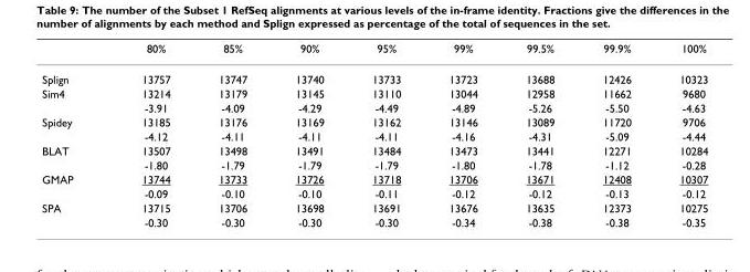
<table><thead><tr><td></td><td>80%</td><td>85%</td><td>90%</td><td>95%</td><td>99%</td><td>99.5%</td><td>99.9%</td><td>100%</td></tr></thead><tbody><tr><td>Splign</td><td>13757</td><td>13747</td><td>13740</td><td>13733</td><td>13723</td><td>13688</td><td>12426</td><td>10323</td></tr><tr><td rowspan="2">Sim4</td><td>13214</td><td>13179</td><td>13145</td><td>13110</td><td>13044</td><td>12958</td><td>11662</td><td>9680</td></tr><tr><td>-3.91</td><td>-4.09</td><td>-4.29</td><td>-4.49</td><td>-4.89</td><td>-5.26</td><td>-5.50</td><td>-4.63</td></tr><tr><td rowspan="2">Spidey</td><td>13185</td><td>13176</td><td>13169</td><td>13162</td><td>13146</td><td>13089</td><td>11720</td><td>9706</td></tr><tr><td>-4.12</td><td>-4.11</td><td>-4.11</td><td>-4.11</td><td>-4.16</td><td>-4.31</td><td>-5.09</td><td>-4.44</td></tr><tr><td rowspan="2">BLAT</td><td>13507</td><td>13498</td><td>13491</td><td>13484</td><td>13473</td><td>13441</td><td>12271</td><td>10284</td></tr><tr><td>-1.80</td><td>-1.79</td><td>-1.79</td><td>-1.79</td><td>-1.80</td><td>-1.78</td><td>-1.12</td><td>-0.28</td></tr><tr><td rowspan="2">GMAP</td><td>13744</td><td>13733</td><td>13726</td><td>13718</td><td>13706</td><td>13671</td><td>12408</td><td>10307</td></tr><tr><td>-0.09</td><td>-0.10</td><td>-0.10</td><td>-0.11</td><td>-0.12</td><td>-0.12</td><td>-0.13</td><td>-0.12</td></tr><tr><td rowspan="2">SPA</td><td>13715</td><td>13706</td><td>13698</td><td>13691</td><td>13676</td><td>13635</td><td>12373</td><td>10275</td></tr><tr><td>-0.30</td><td>-0.30</td><td>-0.30</td><td>-0.30</td><td>-0.34</td><td>-0.38</td><td>-0.38</td><td>-0.35</td></tr></tbody></table>